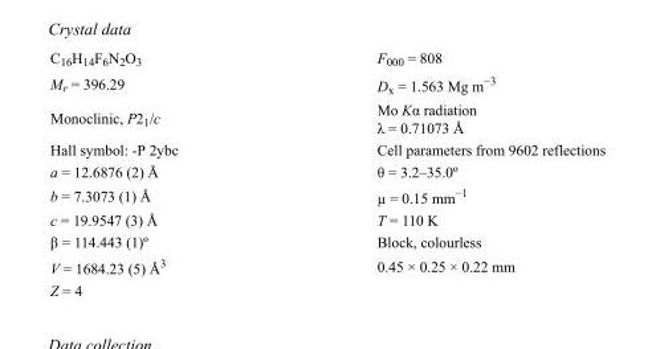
<table><tbody><tr><td>C<sub>16</sub>H<sub>14</sub>F<sub>6</sub>N<sub>2</sub>O<sub>3</sub></td><td>F000 = 808</td></tr><tr><td>M<sub>r</sub> = 396.29</td><td>D<sub>x</sub> = 1.563 Mg m<sup>−3</sup></td></tr><tr><td>Monoclinic, P2<sub>1</sub>/c</td><td>Mo Kα radiation λ = 0.71073 Å</td></tr><tr><td>Hall symbol: -P 2ybc</td><td>Cell parameters from 9602 reflections</td></tr><tr><td>a = 12.6876 (2) Å</td><td>θ = 3.2–35.0º</td></tr><tr><td>b = 7.3073 (1) Å</td><td>µ = 0.15 mm<sup>−1</sup></td></tr><tr><td>c = 19.9547 (3) Å</td><td>T = 110 K</td></tr><tr><td>β = 114.443 (1)º</td><td>Block, colourless</td></tr><tr><td>V = 1684.23 (5) Å<sup>3</sup></td><td>0.45 × 0.25 × 0.22 mm</td></tr><tr><td>Z = 4</td><td></td></tr></tbody></table>